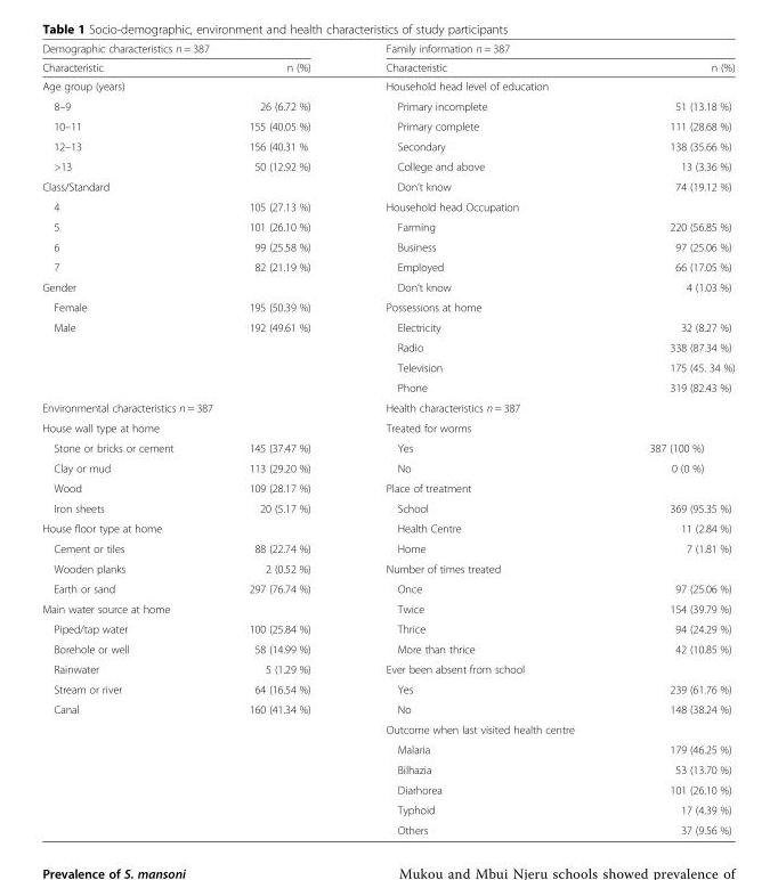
<table><thead><tr><td colspan="2">Demographic characteristics n = 387</td><td colspan="2">Family information n = 387</td></tr><tr><td>Characteristic</td><td>n (%)</td><td>Characteristic</td><td>n (%)</td></tr></thead><tbody><tr><td>Age group (years)</td><td></td><td>Household head level of education</td><td></td></tr><tr><td>8–9</td><td>26 (6.72 %)</td><td>Primary incomplete</td><td>51 (13.18 %)</td></tr><tr><td>10–11</td><td>155 (40.05 %)</td><td>Primary complete</td><td>111 (28.68 %)</td></tr><tr><td>12–13</td><td>156 (40.31 %</td><td>Secondary</td><td>138 (35.66 %)</td></tr><tr><td>&gt;13</td><td>50 (12.92 %)</td><td>College and above</td><td>13 (3.36 %)</td></tr><tr><td>Class/Standard</td><td></td><td>Don’t know</td><td>74 (19.12 %)</td></tr><tr><td>4</td><td>105 (27.13 %)</td><td>Household head Occupation</td><td></td></tr><tr><td>5</td><td>101 (26.10 %)</td><td>Farming</td><td>220 (56.85 %)</td></tr><tr><td>6</td><td>99 (25.58 %)</td><td>Business</td><td>97 (25.06 %)</td></tr><tr><td>7</td><td>82 (21.19 %)</td><td>Employed</td><td>66 (17.05 %)</td></tr><tr><td>Gender</td><td></td><td>Don’t know</td><td>4 (1.03 %)</td></tr><tr><td>Female</td><td>195 (50.39 %)</td><td>Possessions at home</td><td></td></tr><tr><td rowspan="4">Male</td><td>192 (49.61 %)</td><td>Electricity</td><td>32 (8.27 %)</td></tr><tr><td></td><td>Radio</td><td>338 (87.34 %)</td></tr><tr><td></td><td>Television</td><td>175 (45. 34 %)</td></tr><tr><td></td><td>Phone</td><td>319 (82.43 %)</td></tr><tr><td colspan="2">Environmental characteristics n = 387</td><td colspan="2">Health characteristics n = 387</td></tr><tr><td>House wall type at home</td><td></td><td>Treated for worms</td><td></td></tr><tr><td>Stone or bricks or cement</td><td>145 (37.47 %)</td><td>Yes</td><td>387 (100 %)</td></tr><tr><td>Clay or mud</td><td>113 (29.20 %)</td><td>No</td><td>0 (0 %)</td></tr><tr><td>Wood</td><td>109 (28.17 %)</td><td>Place of treatment</td><td></td></tr><tr><td>Iron sheets</td><td>20 (5.17 %)</td><td>School</td><td>369 (95.35 %)</td></tr><tr><td>House floor type at home</td><td></td><td>Health Centre</td><td>11 (2.84 %)</td></tr><tr><td>Cement or tiles</td><td>88 (22.74 %)</td><td>Home</td><td>7 (1.81 %)</td></tr><tr><td>Wooden planks</td><td>2 (0.52 %)</td><td>Number of times treated</td><td></td></tr><tr><td>Earth or sand</td><td>297 (76.74 %)</td><td>Once</td><td>97 (25.06 %)</td></tr><tr><td>Main water source at home</td><td></td><td>Twice</td><td>154 (39.79 %)</td></tr><tr><td>Piped/tap water</td><td>100 (25.84 %)</td><td>Thrice</td><td>94 (24.29 %)</td></tr><tr><td>Borehole or well</td><td>58 (14.99 %)</td><td>More than thrice</td><td>42 (10.85 %)</td></tr><tr><td>Rainwater</td><td>5 (1.29 %)</td><td>Ever been absent from school</td><td></td></tr><tr><td>Stream or river</td><td>64 (16.54 %)</td><td>Yes</td><td>239 (61.76 %)</td></tr><tr><td rowspan="7">Canal</td><td>160 (41.34 %)</td><td>No</td><td>148 (38.24 %)</td></tr><tr><td></td><td>Outcome when last visited health centre</td><td></td></tr><tr><td></td><td>Malaria</td><td>179 (46.25 %)</td></tr><tr><td></td><td>Bilhazia</td><td>53 (13.70 %)</td></tr><tr><td></td><td>Diarhorea</td><td>101 (26.10 %)</td></tr><tr><td></td><td>Typhoid</td><td>17 (4.39 %)</td></tr><tr><td></td><td>Others</td><td>37 (9.56 %)</td></tr></tbody></table>